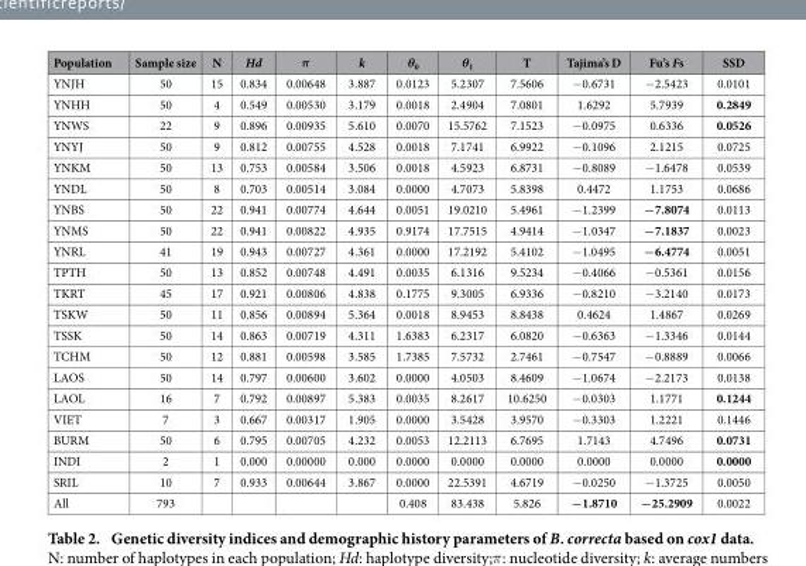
<table><thead><tr><td>Population</td><td>Sample size</td><td>N</td><td>Hd</td><td>π</td><td>k</td><td>θ<sub>0</sub></td><td>θ<sub>1</sub></td><td>T</td><td>Tajima’s D</td><td>Fu’s Fs</td><td>SSD</td></tr></thead><tbody><tr><td>YNJH</td><td>50</td><td>15</td><td>0.834</td><td>0.00648</td><td>3.887</td><td>0.0123</td><td>5.2307</td><td>7.5606</td><td>− 0.6731</td><td>− 2.5423</td><td>0.0101</td></tr><tr><td>YNHH</td><td>50</td><td>4</td><td>0.549</td><td>0.00530</td><td>3.179</td><td>0.0018</td><td>2.4904</td><td>7.0801</td><td>1.6292</td><td>5.7939</td><td>0.2849</td></tr><tr><td>YNWS</td><td>22</td><td>9</td><td>0.896</td><td>0.00935</td><td>5.610</td><td>0.0070</td><td>15.5762</td><td>7.1523</td><td>− 0.0975</td><td>0.6336</td><td>0.0526</td></tr><tr><td>YNYJ</td><td>50</td><td>9</td><td>0.812</td><td>0.00755</td><td>4.528</td><td>0.0018</td><td>7.1741</td><td>6.9922</td><td>− 0.1096</td><td>2.1215</td><td>0.0725</td></tr><tr><td>YNKM</td><td>50</td><td>13</td><td>0.753</td><td>0.00584</td><td>3.506</td><td>0.0018</td><td>4.5923</td><td>6.8731</td><td>− 0.8089</td><td>− 1.6478</td><td>0.0539</td></tr><tr><td>YNDL</td><td>50</td><td>8</td><td>0.703</td><td>0.00514</td><td>3.084</td><td>0.0000</td><td>4.7073</td><td>5.8398</td><td>0.4472</td><td>1.1753</td><td>0.0686</td></tr><tr><td>YNBS</td><td>50</td><td>22</td><td>0.941</td><td>0.00774</td><td>4.644</td><td>0.0051</td><td>19.0210</td><td>5.4961</td><td>− 1.2399</td><td>−7.8074</td><td>0.0113</td></tr><tr><td>YNMS</td><td>50</td><td>22</td><td>0.941</td><td>0.00822</td><td>4.935</td><td>0.9174</td><td>17.7515</td><td>4.9414</td><td>− 1.0347</td><td>−7.1837</td><td>0.0023</td></tr><tr><td>YNRL</td><td>41</td><td>19</td><td>0.943</td><td>0.00727</td><td>4.361</td><td>0.0000</td><td>17.2192</td><td>5.4102</td><td>− 1.0495</td><td>−6.4774</td><td>0.0051</td></tr><tr><td>TPTH</td><td>50</td><td>13</td><td>0.852</td><td>0.00748</td><td>4.491</td><td>0.0035</td><td>6.1316</td><td>9.5234</td><td>− 0.4066</td><td>− 0.5361</td><td>0.0156</td></tr><tr><td>TKRT</td><td>45</td><td>17</td><td>0.921</td><td>0.00806</td><td>4.838</td><td>0.1775</td><td>9.3005</td><td>6.9336</td><td>− 0.8210</td><td>− 3.2140</td><td>0.0173</td></tr><tr><td>TSKW</td><td>50</td><td>11</td><td>0.856</td><td>0.00894</td><td>5.364</td><td>0.0018</td><td>8.9453</td><td>8.8438</td><td>0.4624</td><td>1.4867</td><td>0.0269</td></tr><tr><td>TSSK</td><td>50</td><td>14</td><td>0.863</td><td>0.00719</td><td>4.311</td><td>1.6383</td><td>6.2317</td><td>6.0820</td><td>− 0.6363</td><td>− 1.3346</td><td>0.0144</td></tr><tr><td>TCHM</td><td>50</td><td>12</td><td>0.881</td><td>0.00598</td><td>3.585</td><td>1.7385</td><td>7.5732</td><td>2.7461</td><td>− 0.7547</td><td>− 0.8889</td><td>0.0066</td></tr><tr><td>LAOS</td><td>50</td><td>14</td><td>0.797</td><td>0.00600</td><td>3.602</td><td>0.0000</td><td>4.0503</td><td>8.4609</td><td>− 1.0674</td><td>− 2.2173</td><td>0.0138</td></tr><tr><td>LAOL</td><td>16</td><td>7</td><td>0.792</td><td>0.00897</td><td>5.383</td><td>0.0035</td><td>8.2617</td><td>10.6250</td><td>− 0.0303</td><td>1.1771</td><td>0.1244</td></tr><tr><td>VIET</td><td>7</td><td>3</td><td>0.667</td><td>0.00317</td><td>1.905</td><td>0.0000</td><td>3.5428</td><td>3.9570</td><td>− 0.3303</td><td>1.2221</td><td>0.1446</td></tr><tr><td>BURM</td><td>50</td><td>6</td><td>0.795</td><td>0.00705</td><td>4.232</td><td>0.0053</td><td>12.2113</td><td>6.7695</td><td>1.7143</td><td>4.7496</td><td>0.0731</td></tr><tr><td>INDI</td><td>2</td><td>1</td><td>0.000</td><td>0.00000</td><td>0.000</td><td>0.0000</td><td>0.0000</td><td>0.0000</td><td>0.0000</td><td>0.0000</td><td>0.0000</td></tr><tr><td>SRIL</td><td>10</td><td>7</td><td>0.933</td><td>0.00644</td><td>3.867</td><td>0.0000</td><td>22.5391</td><td>4.6719</td><td>− 0.0250</td><td>− 1.3725</td><td>0.0050</td></tr><tr><td>All</td><td>793</td><td></td><td></td><td></td><td></td><td>0.408</td><td>83.438</td><td>5.826</td><td>−1.8710</td><td>−25.2909</td><td>0.0022</td></tr></tbody></table>